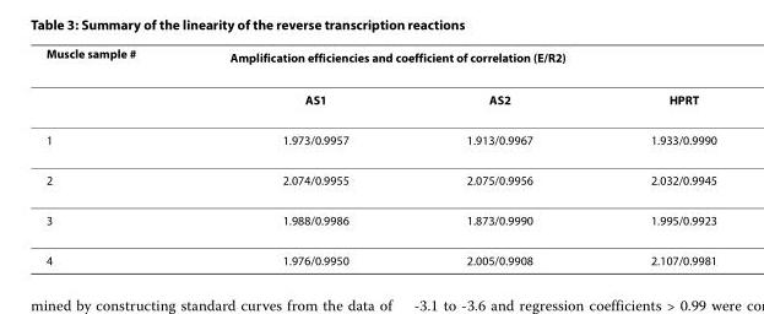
<table><thead><tr><td rowspan="2">Muscle sample #</td><td colspan="3">Amplification efficiencies and coefficient of correlation (E/R<sup>2</sup>)</td></tr><tr><td>AS1</td><td>AS2</td><td>HPRT</td></tr></thead><tbody><tr><td>1</td><td>1.973/0.9957</td><td>1.913/0.9967</td><td>1.933/0.9990</td></tr><tr><td>2</td><td>2.074/0.9955</td><td>2.075/0.9956</td><td>2.032/0.9945</td></tr><tr><td>3</td><td>1.988/0.9986</td><td>1.873/0.9990</td><td>1.995/0.9923</td></tr><tr><td>4</td><td>1.976/0.9950</td><td>2.005/0.9908</td><td>2.107/0.9981</td></tr></tbody></table>